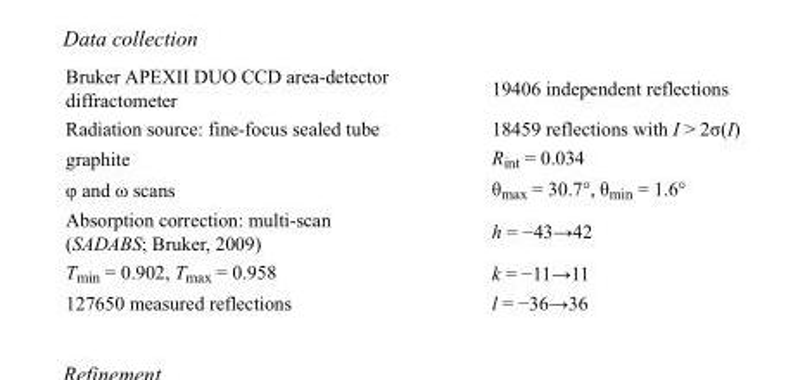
<table><tbody><tr><td>Bruker APEXII DUO CCD area-detector diffractometer</td><td>19406 independent reflections</td></tr><tr><td>Radiation source: fine-focus sealed tube</td><td>18459 reflections with I &gt; 2σ(I)</td></tr><tr><td>graphite</td><td>R<sub>int</sub> = 0.034</td></tr><tr><td>φ and ω scans</td><td>θ<sub>max</sub> = 30.7°, θ<sub>min</sub> = 1.6°</td></tr><tr><td>Absorption correction: multi-scan (SADABS; Bruker, 2009)</td><td>h = −43→42</td></tr><tr><td>T<sub>min</sub> = 0.902, T<sub>max</sub> = 0.958</td><td>k = −11→11</td></tr><tr><td>127650 measured reflections</td><td>l = −36→36</td></tr></tbody></table>